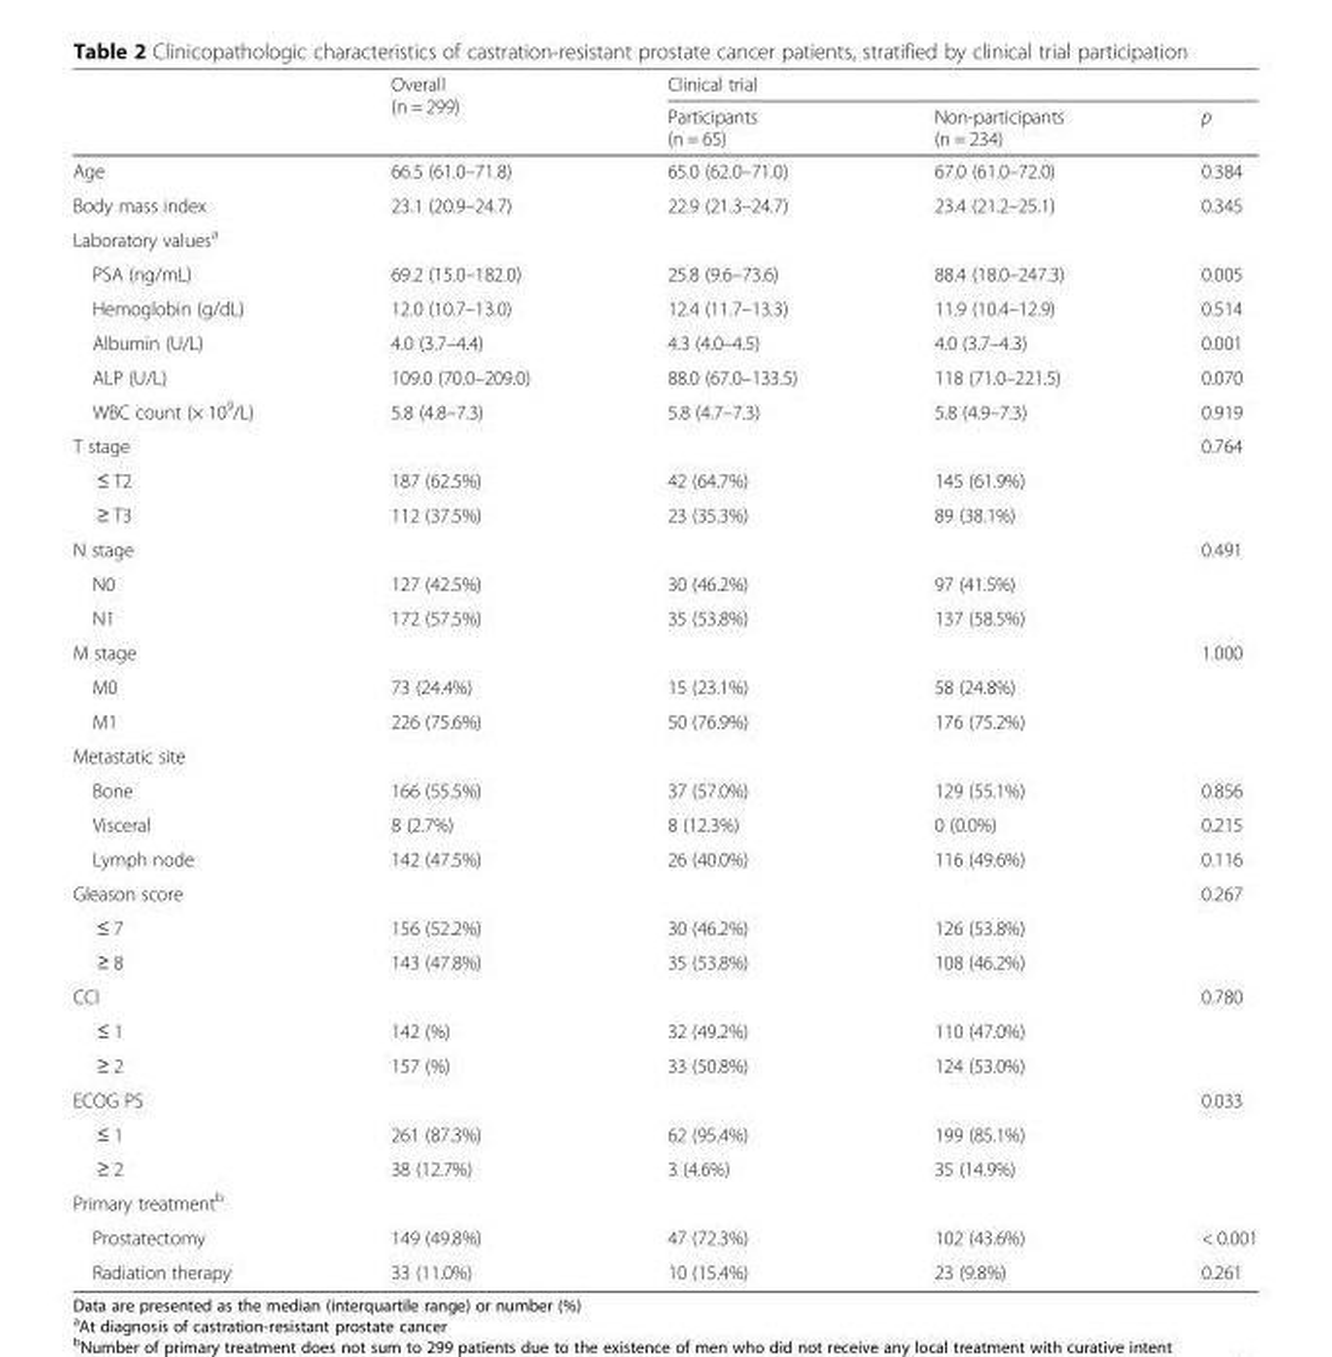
<table><thead><tr><td rowspan="2"></td><td rowspan="2">Overall (n = 299)</td><td colspan="3">Clinical trial</td></tr><tr><td>Participants (n = 65)</td><td>Non-participants (n = 234)</td><td>p</td></tr></thead><tbody><tr><td>Age</td><td>66.5 (61.0–71.8)</td><td>65.0 (62.0–71.0)</td><td>67.0 (61.0–72.0)</td><td>0.384</td></tr><tr><td>Body mass index</td><td>23.1 (20.9–24.7)</td><td>22.9 (21.3–24.7)</td><td>23.4 (21.2–25.1)</td><td>0.345</td></tr><tr><td colspan="5">Laboratory values<sup>a</sup></td></tr><tr><td>PSA (ng/mL)</td><td>69.2 (15.0–182.0)</td><td>25.8 (9.6–73.6)</td><td>88.4 (18.0–247.3)</td><td>0.005</td></tr><tr><td>Hemoglobin (g/dL)</td><td>12.0 (10.7–13.0)</td><td>12.4 (11.7–13.3)</td><td>11.9 (10.4–12.9)</td><td>0.514</td></tr><tr><td>Albumin (U/L)</td><td>4.0 (3.7–4.4)</td><td>4.3 (4.0–4.5)</td><td>4.0 (3.7–4.3)</td><td>0.001</td></tr><tr><td>ALP (U/L)</td><td>109.0 (70.0–209.0)</td><td>88.0 (67.0–133.5)</td><td>118 (71.0–221.5)</td><td>0.070</td></tr><tr><td>WBC count (× 10<sup>9</sup>/L)</td><td>5.8 (4.8–7.3)</td><td>5.8 (4.7–7.3)</td><td>5.8 (4.9–7.3)</td><td>0.919</td></tr><tr><td>T stage</td><td></td><td></td><td></td><td>0.764</td></tr><tr><td>≤ T2</td><td>187 (62.5%)</td><td>42 (64.7%)</td><td>145 (61.9%)</td><td></td></tr><tr><td>≥ T3</td><td>112 (37.5%)</td><td>23 (35.3%)</td><td>89 (38.1%)</td><td></td></tr><tr><td>N stage</td><td></td><td></td><td></td><td>0.491</td></tr><tr><td>N0</td><td>127 (42.5%)</td><td>30 (46.2%)</td><td>97 (41.5%)</td><td></td></tr><tr><td>N1</td><td>172 (57.5%)</td><td>35 (53.8%)</td><td>137 (58.5%)</td><td></td></tr><tr><td>M stage</td><td></td><td></td><td></td><td>1.000</td></tr><tr><td>M0</td><td>73 (24.4%)</td><td>15 (23.1%)</td><td>58 (24.8%)</td><td></td></tr><tr><td>M1</td><td>226 (75.6%)</td><td>50 (76.9%)</td><td>176 (75.2%)</td><td></td></tr><tr><td colspan="5">Metastatic site</td></tr><tr><td>Bone</td><td>166 (55.5%)</td><td>37 (57.0%)</td><td>129 (55.1%)</td><td>0.856</td></tr><tr><td>Visceral</td><td>8 (2.7%)</td><td>8 (12.3%)</td><td>0 (0.0%)</td><td>0.215</td></tr><tr><td>Lymph node</td><td>142 (47.5%)</td><td>26 (40.0%)</td><td>116 (49.6%)</td><td>0.116</td></tr><tr><td>Gleason score</td><td></td><td></td><td></td><td>0.267</td></tr><tr><td>≤ 7</td><td>156 (52.2%)</td><td>30 (46.2%)</td><td>126 (53.8%)</td><td></td></tr><tr><td>≥ 8</td><td>143 (47.8%)</td><td>35 (53.8%)</td><td>108 (46.2%)</td><td></td></tr><tr><td>CCI</td><td></td><td></td><td></td><td>0.780</td></tr><tr><td>≤ 1</td><td>142 (%)</td><td>32 (49.2%)</td><td>110 (47.0%)</td><td></td></tr><tr><td>≥ 2</td><td>157 (%)</td><td>33 (50.8%)</td><td>124 (53.0%)</td><td></td></tr><tr><td>ECOG PS</td><td></td><td></td><td></td><td>0.033</td></tr><tr><td>≤ 1</td><td>261 (87.3%)</td><td>62 (95.4%)</td><td>199 (85.1%)</td><td></td></tr><tr><td>≥ 2</td><td>38 (12.7%)</td><td>3 (4.6%)</td><td>35 (14.9%)</td><td></td></tr><tr><td colspan="5">Primary treatment<sup>b</sup></td></tr><tr><td>Prostatectomy</td><td>149 (49.8%)</td><td>47 (72.3%)</td><td>102 (43.6%)</td><td>&lt; 0.001</td></tr><tr><td>Radiation therapy</td><td>33 (11.0%)</td><td>10 (15.4%)</td><td>23 (9.8%)</td><td>0.261</td></tr></tbody></table>